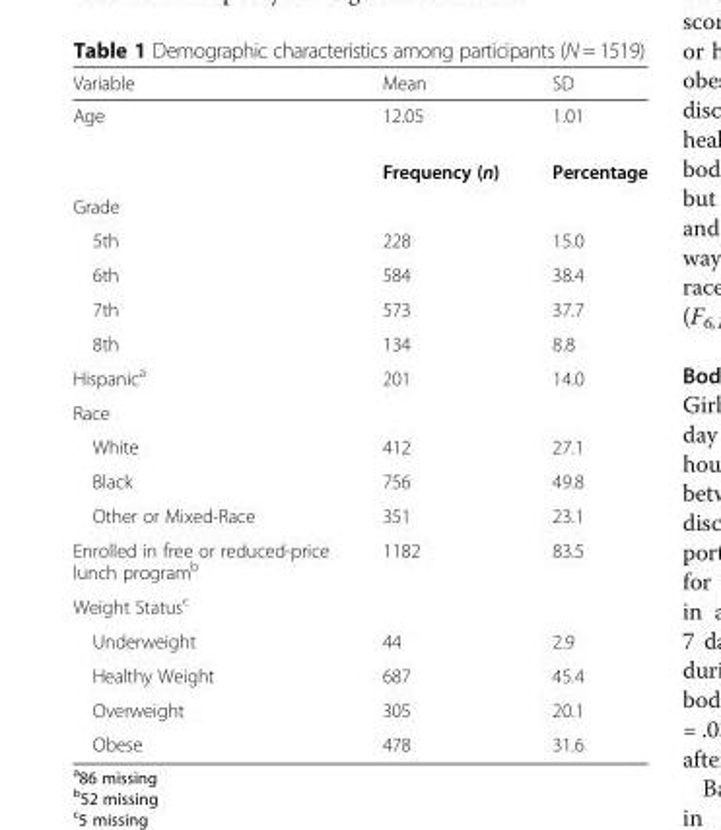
<table><thead><tr><td>Variable</td><td>Mean</td><td>SD</td></tr></thead><tbody><tr><td rowspan="2">Age</td><td>12.05</td><td>1.01</td></tr><tr><td>Frequency (n)</td><td>Percentage</td></tr><tr><td colspan="3">Grade</td></tr><tr><td>5th</td><td>228</td><td>15.0</td></tr><tr><td>6th</td><td>584</td><td>38.4</td></tr><tr><td>7th</td><td>573</td><td>37.7</td></tr><tr><td>8th</td><td>134</td><td>8.8</td></tr><tr><td>Hispanic<sup>a</sup></td><td>201</td><td>14.0</td></tr><tr><td colspan="3">Race</td></tr><tr><td>White</td><td>412</td><td>27.1</td></tr><tr><td>Black</td><td>756</td><td>49.8</td></tr><tr><td>Other or Mixed-Race</td><td>351</td><td>23.1</td></tr><tr><td>Enrolled in free or reduced-price lunch program<sup>b</sup></td><td>1182</td><td>83.5</td></tr><tr><td colspan="3">Weight Status<sup>c</sup></td></tr><tr><td>Underweight</td><td>44</td><td>2.9</td></tr><tr><td>Healthy Weight</td><td>687</td><td>45.4</td></tr><tr><td>Overweight</td><td>305</td><td>20.1</td></tr><tr><td>Obese</td><td>478</td><td>31.6</td></tr></tbody></table>